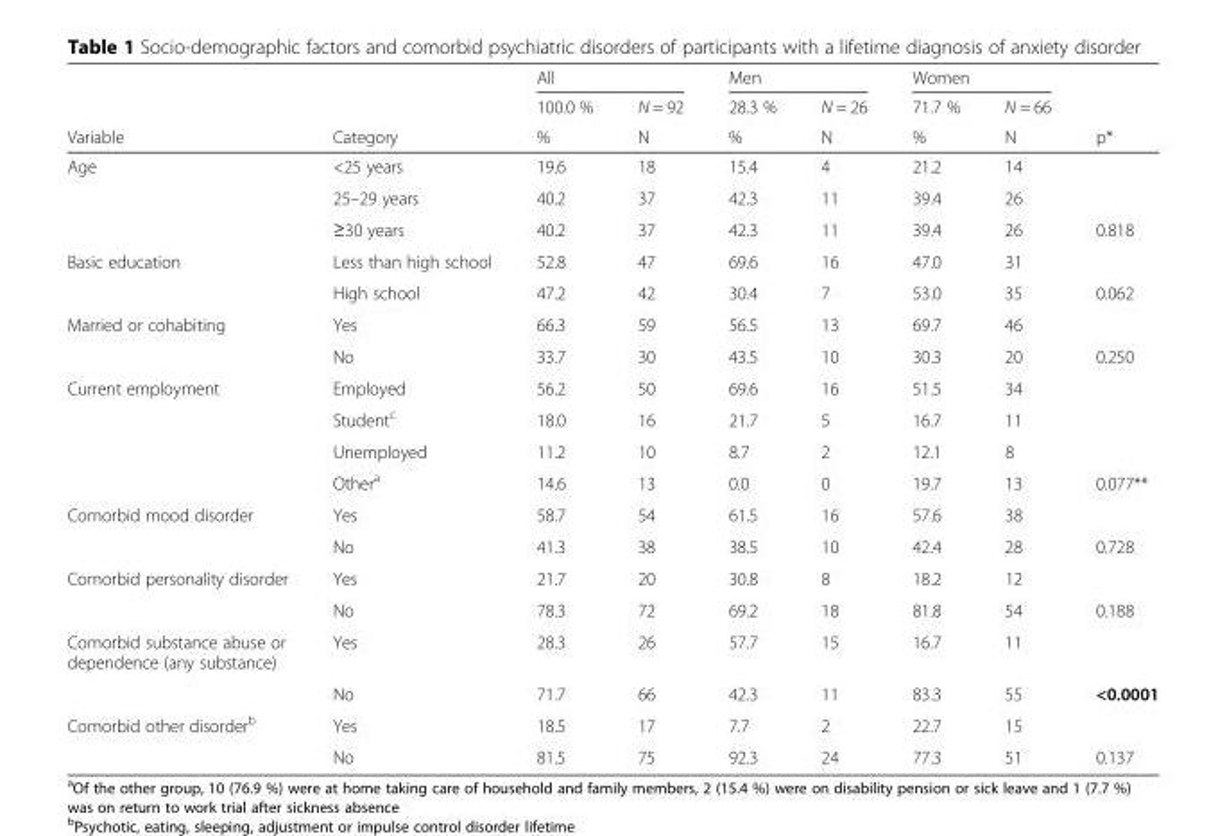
<table><thead><tr><td rowspan="3">Variable</td><td rowspan="3">Category</td><td colspan="2">All</td><td colspan="2">Men</td><td colspan="2">Women</td><td rowspan="3">p*</td></tr><tr><td rowspan="2">100.0 % %</td><td rowspan="2">N = 92 N</td><td rowspan="2">28.3 % %</td><td rowspan="2">N = 26 N</td><td rowspan="2">71.7 % %</td><td rowspan="2">N = 66 N</td></tr><tr></tr></thead><tbody><tr><td rowspan="3">Age</td><td>&lt;25 years</td><td>19.6</td><td>18</td><td>15.4</td><td>4</td><td>21.2</td><td>14</td><td></td></tr><tr><td>25–29 years</td><td>40.2</td><td>37</td><td>42.3</td><td>11</td><td>39.4</td><td>26</td><td></td></tr><tr><td>≥30 years</td><td>40.2</td><td>37</td><td>42.3</td><td>11</td><td>39.4</td><td>26</td><td>0.818</td></tr><tr><td rowspan="2">Basic education</td><td>Less than high school</td><td>52.8</td><td>47</td><td>69.6</td><td>16</td><td>47.0</td><td>31</td><td></td></tr><tr><td>High school</td><td>47.2</td><td>42</td><td>30.4</td><td>7</td><td>53.0</td><td>35</td><td>0.062</td></tr><tr><td rowspan="2">Married or cohabiting</td><td>Yes</td><td>66.3</td><td>59</td><td>56.5</td><td>13</td><td>69.7</td><td>46</td><td></td></tr><tr><td>No</td><td>33.7</td><td>30</td><td>43.5</td><td>10</td><td>30.3</td><td>20</td><td>0.250</td></tr><tr><td rowspan="4">Current employment</td><td>Employed</td><td>56.2</td><td>50</td><td>69.6</td><td>16</td><td>51.5</td><td>34</td><td></td></tr><tr><td>Student<sup>c</sup></td><td>18.0</td><td>16</td><td>21.7</td><td>5</td><td>16.7</td><td>11</td><td></td></tr><tr><td>Unemployed</td><td>11.2</td><td>10</td><td>8.7</td><td>2</td><td>12.1</td><td>8</td><td></td></tr><tr><td>Other<sup>a</sup></td><td>14.6</td><td>13</td><td>0.0</td><td>0</td><td>19.7</td><td>13</td><td>0.077**</td></tr><tr><td rowspan="2">Comorbid mood disorder</td><td>Yes</td><td>58.7</td><td>54</td><td>61.5</td><td>16</td><td>57.6</td><td>38</td><td></td></tr><tr><td>No</td><td>41.3</td><td>38</td><td>38.5</td><td>10</td><td>42.4</td><td>28</td><td>0.728</td></tr><tr><td rowspan="2">Comorbid personality disorder</td><td>Yes</td><td>21.7</td><td>20</td><td>30.8</td><td>8</td><td>18.2</td><td>12</td><td></td></tr><tr><td>No</td><td>78.3</td><td>72</td><td>69.2</td><td>18</td><td>81.8</td><td>54</td><td>0.188</td></tr><tr><td rowspan="2">Comorbid substance abuse or dependence (any substance)</td><td>Yes</td><td>28.3</td><td>26</td><td>57.7</td><td>15</td><td>16.7</td><td>11</td><td></td></tr><tr><td>No</td><td>71.7</td><td>66</td><td>42.3</td><td>11</td><td>83.3</td><td>55</td><td>&lt;0.0001</td></tr><tr><td rowspan="2">Comorbid other disorder<sup>b</sup></td><td>Yes</td><td>18.5</td><td>17</td><td>7.7</td><td>2</td><td>22.7</td><td>15</td><td></td></tr><tr><td>No</td><td>81.5</td><td>75</td><td>92.3</td><td>24</td><td>77.3</td><td>51</td><td>0.137</td></tr></tbody></table>